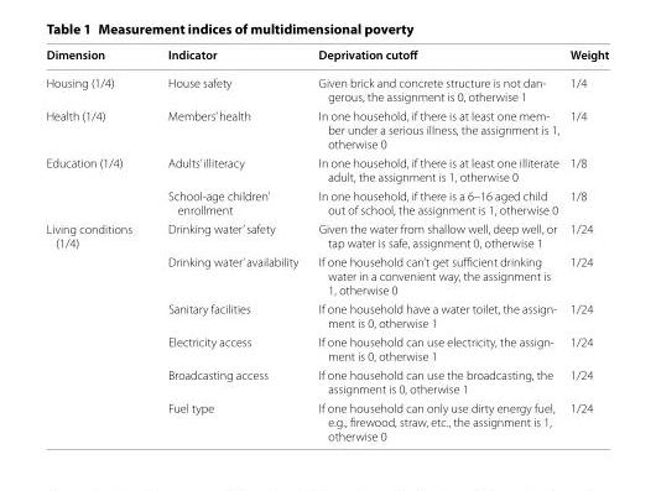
<table><thead><tr><td>Dimension</td><td>Indicator</td><td>Deprivation cutoff</td><td>Weight</td></tr></thead><tbody><tr><td>Housing (1/4)</td><td>House safety</td><td>Given brick and concrete structure is not dan- gerous, the assignment is 0, otherwise 1</td><td>1/4</td></tr><tr><td>Health (1/4)</td><td>Members’ health</td><td>In one household, if there is at least one mem- ber under a serious illness, the assignment is 1, otherwise 0</td><td>1/4</td></tr><tr><td rowspan="2">Education (1/4)</td><td>Adults’ illiteracy</td><td>In one household, if there is at least one illiterate adult, the assignment is 1, otherwise 0</td><td>1/8</td></tr><tr><td>School-age children’ enrollment</td><td>In one household, if there is a 6–16 aged child out of school, the assignment is 1, otherwise 0</td><td>1/8</td></tr><tr><td rowspan="6">Living conditions (1/4)</td><td>Drinking water’ safety</td><td>Given the water from shallow well, deep well, or tap water is safe, assignment 0, otherwise 1</td><td>1/24</td></tr><tr><td>Drinking water’ availability</td><td>If one household can’t get sufficient drinking water in a convenient way, the assignment is 1, otherwise 0</td><td>1/24</td></tr><tr><td>Sanitary facilities</td><td>If one household have a water toilet, the assign- ment is 0, otherwise 1</td><td>1/24</td></tr><tr><td>Electricity access</td><td>If one household can use electricity, the assign- ment is 0, otherwise 1</td><td>1/24</td></tr><tr><td>Broadcasting access</td><td>If one household can use the broadcasting, the assignment is 0, otherwise 1</td><td>1/24</td></tr><tr><td>Fuel type</td><td>If one household can only use dirty energy fuel, e.g., firewood, straw, etc., the assignment is 1, otherwise 0</td><td>1/24</td></tr></tbody></table>